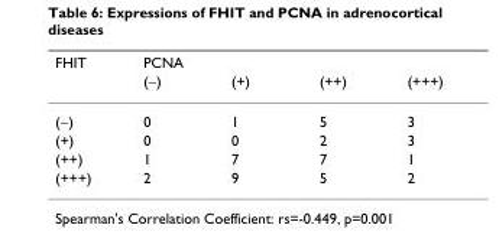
<table><thead><tr><td rowspan="2">FHIT</td><td colspan="4">PCNA</td></tr><tr><td>(−)</td><td>(+)</td><td>(++)</td><td>(+++)</td></tr></thead><tbody><tr><td>(−)</td><td>0</td><td>1</td><td>5</td><td>3</td></tr><tr><td>(+)</td><td>0</td><td>0</td><td>2</td><td>3</td></tr><tr><td>(++)</td><td>1</td><td>7</td><td>7</td><td>1</td></tr><tr><td>(+++)</td><td>2</td><td>9</td><td>5</td><td>2</td></tr></tbody></table>